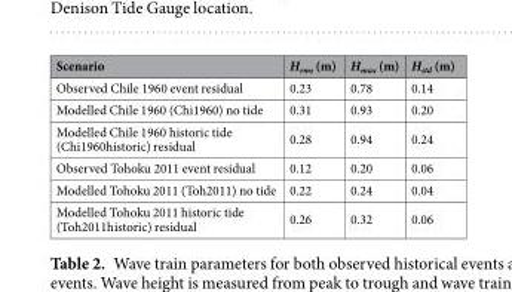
<table><thead><tr><td>Scenario</td><td>H<sub>rms</sub> (m)</td><td>H<sub>max</sub> (m)</td><td>H<sub>std</sub> (m)</td></tr></thead><tbody><tr><td>Observed Chile 1960 event residual</td><td>0.23</td><td>0.78</td><td>0.14</td></tr><tr><td>Modelled Chile 1960 (Chi1960) no tide</td><td>0.31</td><td>0.93</td><td>0.20</td></tr><tr><td>Modelled Chile 1960 historic tide (Chi1960historic) residual</td><td>0.28</td><td>0.94</td><td>0.24</td></tr><tr><td>Observed Tohoku 2011 event residual</td><td>0.12</td><td>0.20</td><td>0.06</td></tr><tr><td>Modelled Tohoku 2011 (Toh2011) no tide</td><td>0.22</td><td>0.24</td><td>0.04</td></tr><tr><td>Modelled Tohoku 2011 historic tide (Toh2011historic) residual</td><td>0.26</td><td>0.32</td><td>0.06</td></tr></tbody></table>